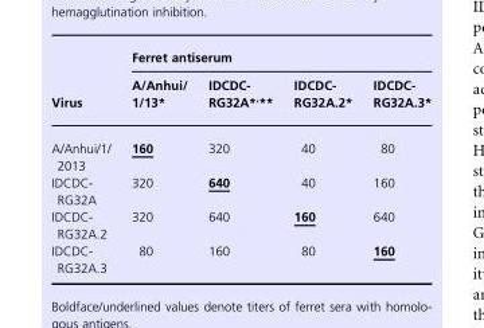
<table><thead><tr><td rowspan="2">Virus</td><td colspan="4">Ferret antiserum</td></tr><tr><td>A/Anhui/ 1/13*</td><td>IDCDC- RG32A*,**</td><td>IDCDC- RG32A.2*</td><td>IDCDC- RG32A.3*</td></tr></thead><tbody><tr><td>A/Anhui/1/ 2013</td><td>160</td><td>320</td><td>40</td><td>80</td></tr><tr><td>IDCDC- RG32A</td><td>320</td><td>640</td><td>40</td><td>160</td></tr><tr><td>IDCDC- RG32A.2</td><td>320</td><td>640</td><td>160</td><td>640</td></tr><tr><td>IDCDC- RG32A.3</td><td>80</td><td>160</td><td>80</td><td>160</td></tr></tbody></table>